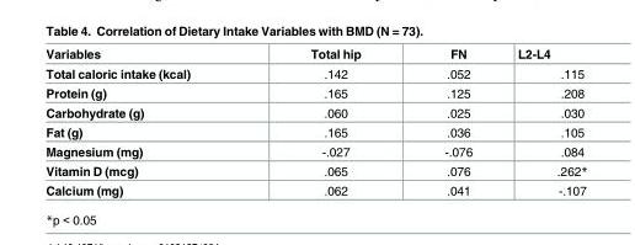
<table><thead><tr><td>Variables</td><td>Total hip</td><td>FN</td><td>L2-L4</td></tr></thead><tbody><tr><td>Total caloric intake (kcal)</td><td>.142</td><td>.052</td><td>.115</td></tr><tr><td>Protein (g)</td><td>.165</td><td>.125</td><td>.208</td></tr><tr><td>Carbohydrate (g)</td><td>.060</td><td>.025</td><td>.030</td></tr><tr><td>Fat (g)</td><td>.165</td><td>.036</td><td>.105</td></tr><tr><td>Magnesium (mg)</td><td>-.027</td><td>-.076</td><td>.084</td></tr><tr><td>Vitamin D (mcg)</td><td>.065</td><td>.076</td><td>.262*</td></tr><tr><td>Calcium (mg)</td><td>.062</td><td>.041</td><td>-.107</td></tr></tbody></table>